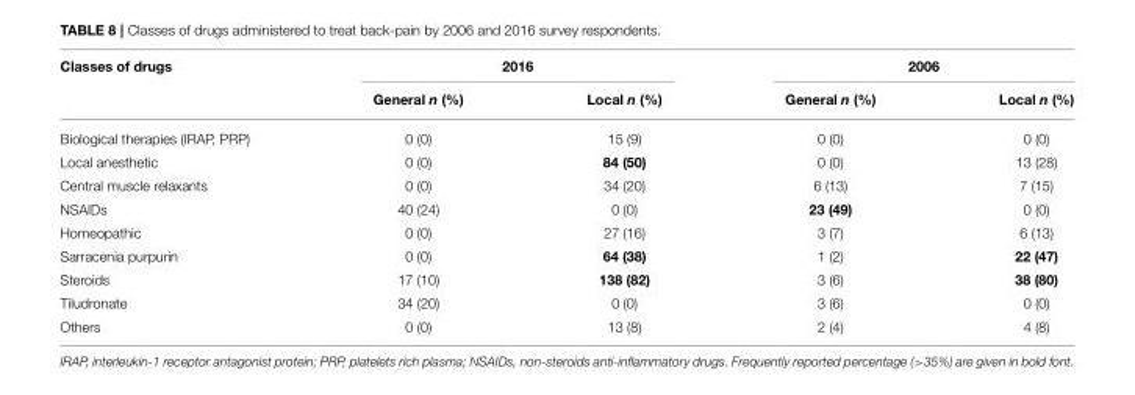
<table><thead><tr><td rowspan="2">Classes of drugs</td><td colspan="2">2016</td><td colspan="2">2006</td></tr><tr><td>General n (%)</td><td>Local n (%)</td><td>General n (%)</td><td>Local n (%)</td></tr></thead><tbody><tr><td>Biological therapies (IRAP, PRP)</td><td>0 (0)</td><td>15 (9)</td><td>0 (0)</td><td>0 (0)</td></tr><tr><td>Local anesthetic</td><td>0 (0)</td><td>84 (50)</td><td>0 (0)</td><td>13 (28)</td></tr><tr><td>Central muscle relaxants</td><td>0 (0)</td><td>34 (20)</td><td>6 (13)</td><td>7 (15)</td></tr><tr><td>NSAIDs</td><td>40 (24)</td><td>0 (0)</td><td>23 (49)</td><td>0 (0)</td></tr><tr><td>Homeopathic</td><td>0 (0)</td><td>27 (16)</td><td>3 (7)</td><td>6 (13)</td></tr><tr><td>Sarracenia purpurin</td><td>0 (0)</td><td>64 (38)</td><td>1 (2)</td><td>22 (47)</td></tr><tr><td>Steroids</td><td>17 (10)</td><td>138 (82)</td><td>3 (6)</td><td>38 (80)</td></tr><tr><td>Tiludronate</td><td>34 (20)</td><td>0 (0)</td><td>3 (6)</td><td>0 (0)</td></tr><tr><td>Others</td><td>0 (0)</td><td>13 (8)</td><td>2 (4)</td><td>4 (8)</td></tr></tbody></table>